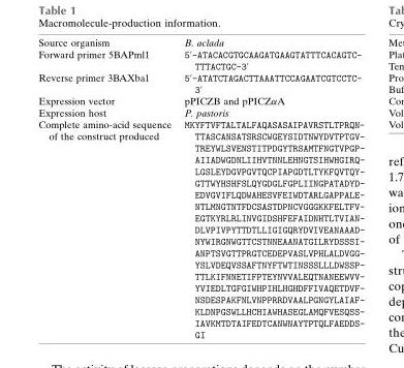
<table><tbody><tr><td>Source organism</td><td>B. aclada</td></tr><tr><td>Forward primer 5BAPml1</td><td>50-ATACACGTGCAAGATGAAGTATTTCACAGTC- TTTACTGC-30</td></tr><tr><td>Reverse primer 3BAXba1</td><td>5′-ATATCTAGACTTAAATTCCAGAATCGTCCTC- 3′</td></tr><tr><td>Expression vector</td><td>pPICZB and pPICZαA</td></tr><tr><td>Expression host</td><td>P. pastoris</td></tr><tr><td>Complete amino-acid sequence of the construct produced</td><td>MKYFTVFTALTALFAQASASAIPAVRSTLTPRQN- TTASCANSATSRSCWGEYSIDTNWYDVTPTGV- TREYWLSVENSTITPDGYTRSAMTFNGTVPGP- AIIADWGDNLIIHVTNNLEHNGTSIHWHGIRQ- LGSLEYDGVPGVTQCPIAPGDTLTYKFQVTQY- GTTWYHSHFSLQYGDGLFGPLIINGPATADYD- EDVGVIFLQDWAHESVFEIWDTARLGAPPALE- NTLMNGTNTFDCSASTDPNCVGGGKKFELTFV- EGTKYRLRLINVGIDSHFEFAIDNHTLTVIAN- DLVPIVPYTTDTLLIGIGQRYDVIVEANAAAD- NYWIRGNWGTTCSTNNEAANATGILRYDSSSI- ANPTSVGTTPRGTCEDEPVASLVPHLALDVGG- YSLVDEQVSSAFTNYFTWTINSSSLLLDWSSP- TTLKIFNNETIFPTEYNVVALEQTNANEEWVV- YVIEDLTGFGIWHPIHLHGHDFFIVAQETDVF- NSDESPAKFNLVNPPRRDVAALPGNGYLAIAF- KLDNPGSWLLHCHIAWHASEGLAMQFVESQSS- IAVKMTDTAIFEDTCANWNAYTPTQLFAEDDS-</td></tr></tbody></table>